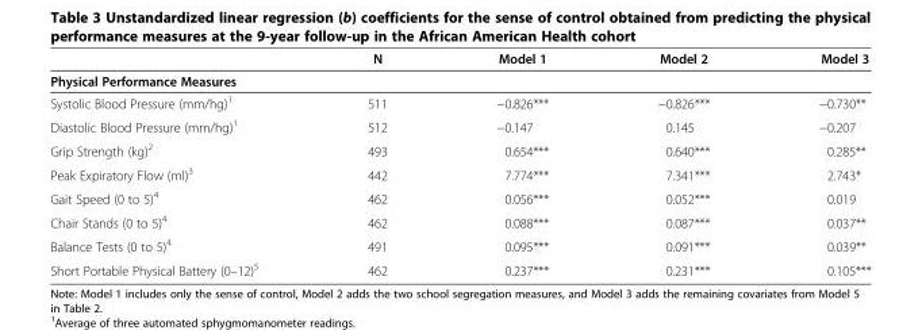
<table><thead><tr><td></td><td>N</td><td>Model 1</td><td>Model 2</td><td>Model 3</td></tr><tr><td colspan="5">Physical Performance Measures</td></tr></thead><tbody><tr><td>Systolic Blood Pressure (mm/hg)<sup>1</sup></td><td>511</td><td>−0.826***</td><td>−0.826***</td><td>−0.730**</td></tr><tr><td>Diastolic Blood Pressure (mm/hg)<sup>1</sup></td><td>512</td><td>−0.147</td><td>0.145</td><td>−0.207</td></tr><tr><td>Grip Strength (kg)<sup>2</sup></td><td>493</td><td>0.654***</td><td>0.640***</td><td>0.285**</td></tr><tr><td>Peak Expiratory Flow (ml)<sup>3</sup></td><td>442</td><td>7.774***</td><td>7.341***</td><td>2.743*</td></tr><tr><td>Gait Speed (0 to 5)<sup>4</sup></td><td>462</td><td>0.056***</td><td>0.052***</td><td>0.019</td></tr><tr><td>Chair Stands (0 to 5)<sup>4</sup></td><td>462</td><td>0.088***</td><td>0.087***</td><td>0.037**</td></tr><tr><td>Balance Tests (0 to 5)<sup>4</sup></td><td>491</td><td>0.095***</td><td>0.091***</td><td>0.039**</td></tr><tr><td>Short Portable Physical Battery (0–12)<sup>5</sup></td><td>462</td><td>0.237***</td><td>0.231***</td><td>0.105***</td></tr></tbody></table>